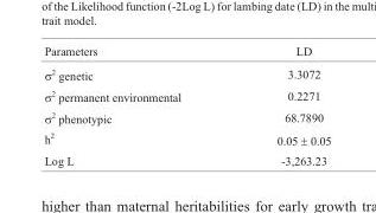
<table><thead><tr><td>Parameters</td><td>LD</td></tr></thead><tbody><tr><td>σ<sup>2</sup> genetic</td><td>3.3072</td></tr><tr><td>σ<sup>2</sup> permanent environmental</td><td>0.2271</td></tr><tr><td>σ<sup>2</sup> phenotypic</td><td>68.7890</td></tr><tr><td>h<sup>2</sup></td><td>0.05 ± 0.05</td></tr><tr><td>Log L</td><td>-3,263.23</td></tr></tbody></table>